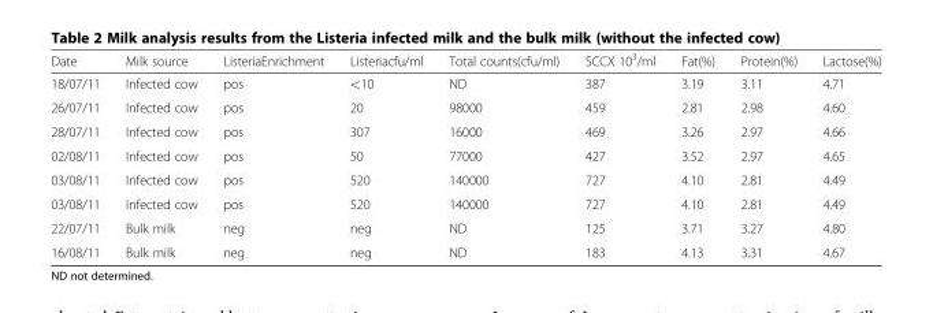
<table><thead><tr><td>Date</td><td>Milk source</td><td>ListeriaEnrichment</td><td>Listeriacfu/ml</td><td>Total counts(cfu/ml)</td><td>SCCX 10<sup>3</sup>/ml</td><td>Fat(%)</td><td>Protein(%)</td><td>Lactose(%)</td></tr></thead><tbody><tr><td>18/07/11</td><td>Infected cow</td><td>pos</td><td>&lt;10</td><td>ND</td><td>387</td><td>3.19</td><td>3.11</td><td>4.71</td></tr><tr><td>26/07/11</td><td>Infected cow</td><td>pos</td><td>20</td><td>98000</td><td>459</td><td>2.81</td><td>2.98</td><td>4.60</td></tr><tr><td>28/07/11</td><td>Infected cow</td><td>pos</td><td>307</td><td>16000</td><td>469</td><td>3.26</td><td>2.97</td><td>4.66</td></tr><tr><td>02/08/11</td><td>Infected cow</td><td>pos</td><td>50</td><td>77000</td><td>427</td><td>3.52</td><td>2.97</td><td>4.65</td></tr><tr><td>03/08/11</td><td>Infected cow</td><td>pos</td><td>520</td><td>140000</td><td>727</td><td>4.10</td><td>2.81</td><td>4.49</td></tr><tr><td>03/08/11</td><td>Infected cow</td><td>pos</td><td>520</td><td>140000</td><td>727</td><td>4.10</td><td>2.81</td><td>4.49</td></tr><tr><td>22/07/11</td><td>Bulk milk</td><td>neg</td><td>neg</td><td>ND</td><td>125</td><td>3.71</td><td>3.27</td><td>4.80</td></tr><tr><td>16/08/11</td><td>Bulk milk</td><td>neg</td><td>neg</td><td>ND</td><td>183</td><td>4.13</td><td>3.31</td><td>4.67</td></tr></tbody></table>